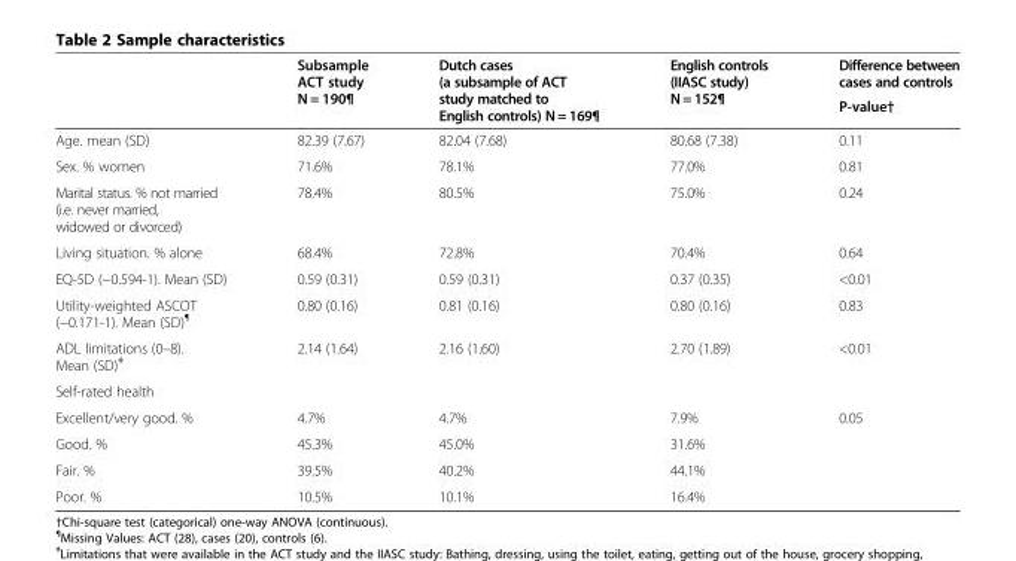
<table><thead><tr><td rowspan="2"></td><td rowspan="2">Subsample ACT study N = 190¶</td><td rowspan="2">Dutch cases (a subsample of ACT study matched to English controls) N = 169¶</td><td rowspan="2">English controls (IIASC study) N = 152¶</td><td rowspan="2">Difference between cases and controls P-value†</td></tr><tr></tr></thead><tbody><tr><td>Age. mean (SD)</td><td>82.39 (7.67)</td><td>82.04 (7.68)</td><td>80.68 (7.38)</td><td>0.11</td></tr><tr><td>Sex. % women</td><td>71.6%</td><td>78.1%</td><td>77.0%</td><td>0.81</td></tr><tr><td>Marital status. % not married (i.e. never married, widowed or divorced)</td><td>78.4%</td><td>80.5%</td><td>75.0%</td><td>0.24</td></tr><tr><td>Living situation. % alone</td><td>68.4%</td><td>72.8%</td><td>70.4%</td><td>0.64</td></tr><tr><td>EQ-5D (−0.594-1). Mean (SD)</td><td>0.59 (0.31)</td><td>0.59 (0.31)</td><td>0.37 (0.35)</td><td>&lt;0.01</td></tr><tr><td>Utility-weighted ASCOT (−0.171-1). Mean (SD)<sup>¶</sup></td><td>0.80 (0.16)</td><td>0.81 (0.16)</td><td>0.80 (0.16)</td><td>0.83</td></tr><tr><td>ADL limitations (0–8). Mean (SD)<sup>ǂ</sup></td><td>2.14 (1.64)</td><td>2.16 (1.60)</td><td>2.70 (1.89)</td><td>&lt;0.01</td></tr><tr><td colspan="5">Self-rated health</td></tr><tr><td>Excellent/very good. %</td><td>4.7%</td><td>4.7%</td><td>7.9%</td><td>0.05</td></tr><tr><td>Good. %</td><td>45.3%</td><td>45.0%</td><td>31.6%</td><td></td></tr><tr><td>Fair. %</td><td>39.5%</td><td>40.2%</td><td>44.1%</td><td></td></tr><tr><td>Poor. %</td><td>10.5%</td><td>10.1%</td><td>16.4%</td><td></td></tr></tbody></table>